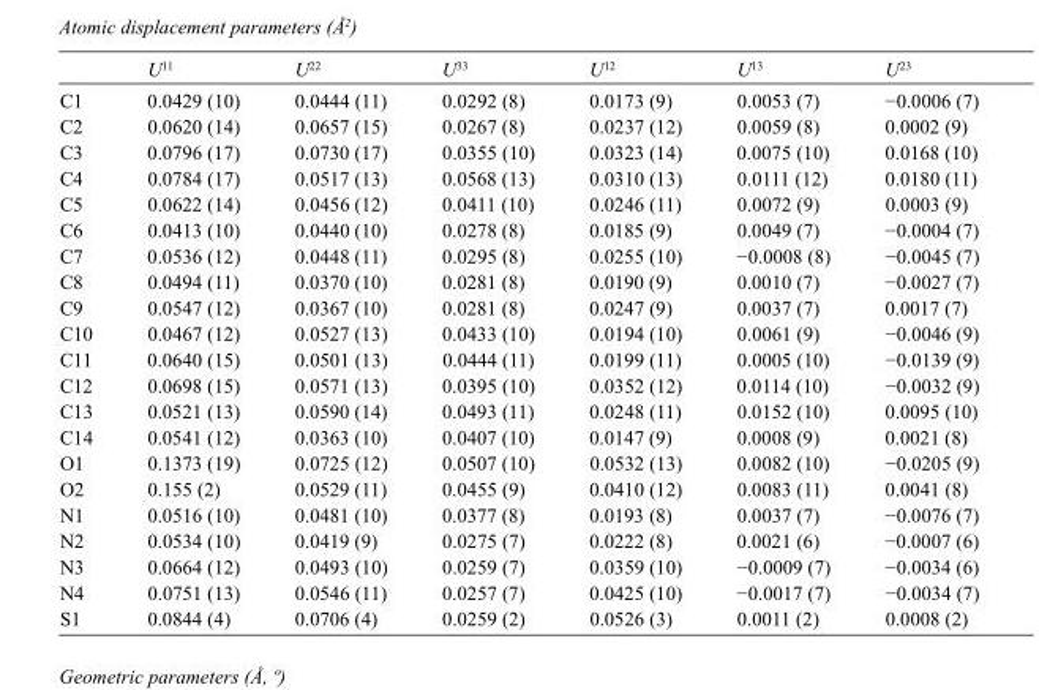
<table><thead><tr><td></td><td>U<sup>11</sup></td><td>U<sup>22</sup></td><td>U<sup>33</sup></td><td>U<sup>12</sup></td><td>U<sup>13</sup></td><td>U<sup>23</sup></td></tr></thead><tbody><tr><td>C1</td><td>0.0429 (10)</td><td>0.0444 (11)</td><td>0.0292 (8)</td><td>0.0173 (9)</td><td>0.0053 (7)</td><td>−0.0006 (7)</td></tr><tr><td>C2</td><td>0.0620 (14)</td><td>0.0657 (15)</td><td>0.0267 (8)</td><td>0.0237 (12)</td><td>0.0059 (8)</td><td>0.0002 (9)</td></tr><tr><td>C3</td><td>0.0796 (17)</td><td>0.0730 (17)</td><td>0.0355 (10)</td><td>0.0323 (14)</td><td>0.0075 (10)</td><td>0.0168 (10)</td></tr><tr><td>C4</td><td>0.0784 (17)</td><td>0.0517 (13)</td><td>0.0568 (13)</td><td>0.0310 (13)</td><td>0.0111 (12)</td><td>0.0180 (11)</td></tr><tr><td>C5</td><td>0.0622 (14)</td><td>0.0456 (12)</td><td>0.0411 (10)</td><td>0.0246 (11)</td><td>0.0072 (9)</td><td>0.0003 (9)</td></tr><tr><td>C6</td><td>0.0413 (10)</td><td>0.0440 (10)</td><td>0.0278 (8)</td><td>0.0185 (9)</td><td>0.0049 (7)</td><td>−0.0004 (7)</td></tr><tr><td>C7</td><td>0.0536 (12)</td><td>0.0448 (11)</td><td>0.0295 (8)</td><td>0.0255 (10)</td><td>−0.0008 (8)</td><td>−0.0045 (7)</td></tr><tr><td>C8</td><td>0.0494 (11)</td><td>0.0370 (10)</td><td>0.0281 (8)</td><td>0.0190 (9)</td><td>0.0010 (7)</td><td>−0.0027 (7)</td></tr><tr><td>C9</td><td>0.0547 (12)</td><td>0.0367 (10)</td><td>0.0281 (8)</td><td>0.0247 (9)</td><td>0.0037 (7)</td><td>0.0017 (7)</td></tr><tr><td>C10</td><td>0.0467 (12)</td><td>0.0527 (13)</td><td>0.0433 (10)</td><td>0.0194 (10)</td><td>0.0061 (9)</td><td>−0.0046 (9)</td></tr><tr><td>C11</td><td>0.0640 (15)</td><td>0.0501 (13)</td><td>0.0444 (11)</td><td>0.0199 (11)</td><td>0.0005 (10)</td><td>−0.0139 (9)</td></tr><tr><td>C12</td><td>0.0698 (15)</td><td>0.0571 (13)</td><td>0.0395 (10)</td><td>0.0352 (12)</td><td>0.0114 (10)</td><td>−0.0032 (9)</td></tr><tr><td>C13</td><td>0.0521 (13)</td><td>0.0590 (14)</td><td>0.0493 (11)</td><td>0.0248 (11)</td><td>0.0152 (10)</td><td>0.0095 (10)</td></tr><tr><td>C14</td><td>0.0541 (12)</td><td>0.0363 (10)</td><td>0.0407 (10)</td><td>0.0147 (9)</td><td>0.0008 (9)</td><td>0.0021 (8)</td></tr><tr><td>O1</td><td>0.1373 (19)</td><td>0.0725 (12)</td><td>0.0507 (10)</td><td>0.0532 (13)</td><td>0.0082 (10)</td><td>−0.0205 (9)</td></tr><tr><td>O2</td><td>0.155 (2)</td><td>0.0529 (11)</td><td>0.0455 (9)</td><td>0.0410 (12)</td><td>0.0083 (11)</td><td>0.0041 (8)</td></tr><tr><td>N1</td><td>0.0516 (10)</td><td>0.0481 (10)</td><td>0.0377 (8)</td><td>0.0193 (8)</td><td>0.0037 (7)</td><td>−0.0076 (7)</td></tr><tr><td>N2</td><td>0.0534 (10)</td><td>0.0419 (9)</td><td>0.0275 (7)</td><td>0.0222 (8)</td><td>0.0021 (6)</td><td>−0.0007 (6)</td></tr><tr><td>N3</td><td>0.0664 (12)</td><td>0.0493 (10)</td><td>0.0259 (7)</td><td>0.0359 (10)</td><td>−0.0009 (7)</td><td>−0.0034 (6)</td></tr><tr><td>N4</td><td>0.0751 (13)</td><td>0.0546 (11)</td><td>0.0257 (7)</td><td>0.0425 (10)</td><td>−0.0017 (7)</td><td>−0.0034 (7)</td></tr><tr><td>S1</td><td>0.0844 (4)</td><td>0.0706 (4)</td><td>0.0259 (2)</td><td>0.0526 (3)</td><td>0.0011 (2)</td><td>0.0008 (2)</td></tr></tbody></table>